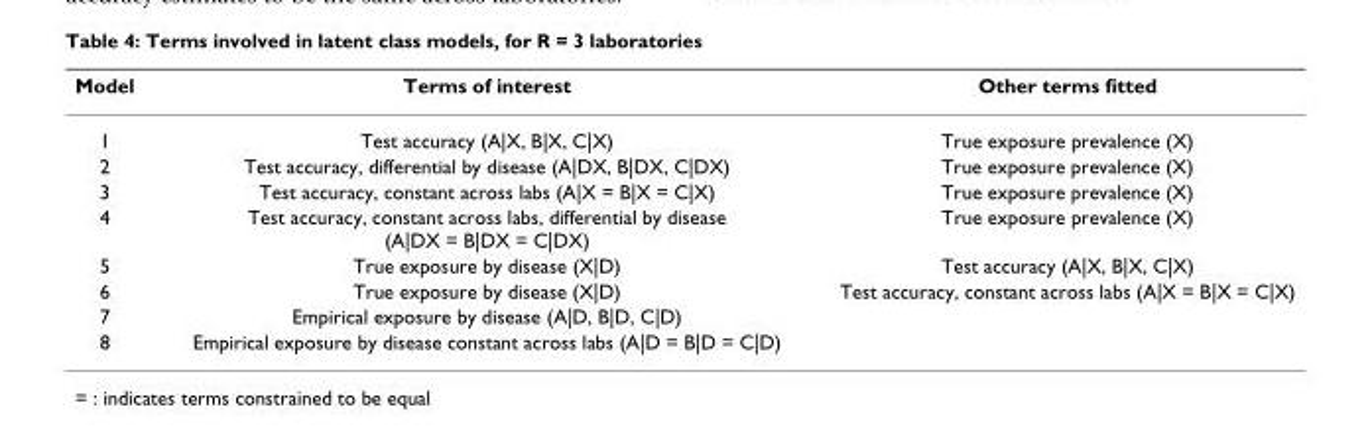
<table><thead><tr><td>Model</td><td>Terms of interest</td><td>Other terms fitted</td></tr></thead><tbody><tr><td>1</td><td>Test accuracy (A|X, B|X, C|X)</td><td>True exposure prevalence (X)</td></tr><tr><td>2</td><td>Test accuracy, differential by disease (A|DX, B|DX, C|DX)</td><td>True exposure prevalence (X)</td></tr><tr><td>3</td><td>Test accuracy, constant across labs (A|X = B|X = C|X)</td><td>True exposure prevalence (X)</td></tr><tr><td>4</td><td>Test accuracy, constant across labs, differential by disease (A|DX = B|DX = C|DX)</td><td>True exposure prevalence (X)</td></tr><tr><td>5</td><td>True exposure by disease (X|D)</td><td>Test accuracy (A|X, B|X, C|X)</td></tr><tr><td>6</td><td>True exposure by disease (X|D)</td><td>Test accuracy, constant across labs (A|X = B|X = C|X)</td></tr><tr><td>7</td><td>Empirical exposure by disease (A|D, B|D, C|D)</td><td></td></tr><tr><td>8</td><td>Empirical exposure by disease constant across labs (A|D = B|D = C|D)</td><td></td></tr></tbody></table>